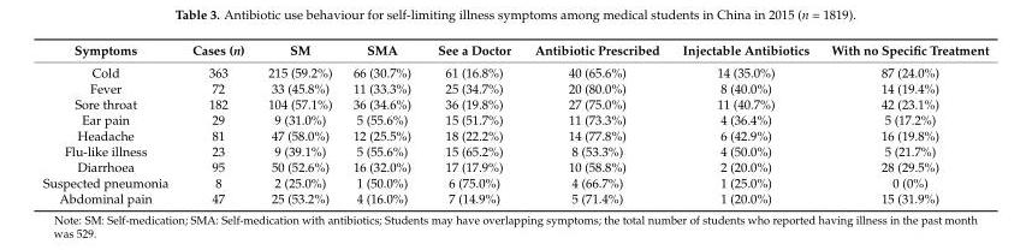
<table><thead><tr><td>Symptoms</td><td>Cases (n)</td><td>SM</td><td>SMA</td><td>See a Doctor</td><td>Antibiotic Prescribed</td><td>Injectable Antibiotics</td><td>With no Specific Treatment</td></tr></thead><tbody><tr><td>Cold</td><td>363</td><td>215 (59.2%)</td><td>66 (30.7%)</td><td>61 (16.8%)</td><td>40 (65.6%)</td><td>14 (35.0%)</td><td>87 (24.0%)</td></tr><tr><td>Fever</td><td>72</td><td>33 (45.8%)</td><td>11 (33.3%)</td><td>25 (34.7%)</td><td>20 (80.0%)</td><td>8 (40.0%)</td><td>14 (19.4%)</td></tr><tr><td>Sore throat</td><td>182</td><td>104 (57.1%)</td><td>36 (34.6%)</td><td>36 (19.8%)</td><td>27 (75.0%)</td><td>11 (40.7%)</td><td>42 (23.1%)</td></tr><tr><td>Ear pain</td><td>29</td><td>9 (31.0%)</td><td>5 (55.6%)</td><td>15 (51.7%)</td><td>11 (73.3%)</td><td>4 (36.4%)</td><td>5 (17.2%)</td></tr><tr><td>Headache</td><td>81</td><td>47 (58.0%)</td><td>12 (25.5%)</td><td>18 (22.2%)</td><td>14 (77.8%)</td><td>6 (42.9%)</td><td>16 (19.8%)</td></tr><tr><td>Flu-like illness</td><td>23</td><td>9 (39.1%)</td><td>5 (55.6%)</td><td>15 (65.2%)</td><td>8 (53.3%)</td><td>4 (50.0%)</td><td>5 (21.7%)</td></tr><tr><td>Diarrhoea</td><td>95</td><td>50 (52.6%)</td><td>16 (32.0%)</td><td>17 (17.9%)</td><td>10 (58.8%)</td><td>2 (20.0%)</td><td>28 (29.5%)</td></tr><tr><td>Suspected pneumonia</td><td>8</td><td>2 (25.0%)</td><td>1 (50.0%)</td><td>6 (75.0%)</td><td>4 (66.7%)</td><td>1 (25.0%)</td><td>0 (0%)</td></tr><tr><td>Abdominal pain</td><td>47</td><td>25 (53.2%)</td><td>4 (16.0%)</td><td>7 (14.9%)</td><td>5 (71.4%)</td><td>1 (20.0%)</td><td>15 (31.9%)</td></tr></tbody></table>